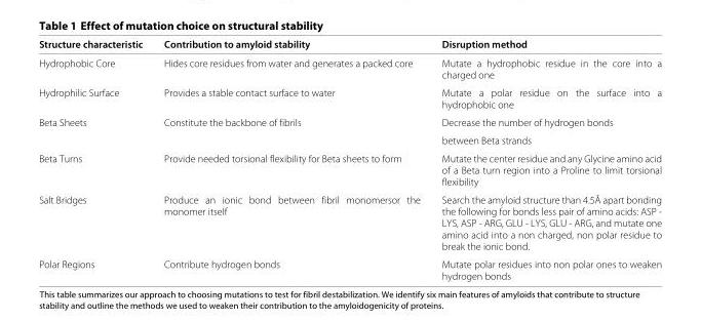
<table><thead><tr><td>Structure characteristic</td><td>Contribution to amyloid stability</td><td>Disruption method</td></tr></thead><tbody><tr><td>Hydrophobic Core</td><td>Hides core residues from water and generates a packed core</td><td>Mutate a hydrophobic residue in the core into a charged one</td></tr><tr><td>Hydrophilic Surface</td><td>Provides a stable contact surface to water</td><td>Mutate a polar residue on the surface into a hydrophobic one</td></tr><tr><td rowspan="2">Beta Sheets</td><td>Constitute the backbone of fibrils</td><td>Decrease the number of hydrogen bonds</td></tr><tr><td></td><td>between Beta strands</td></tr><tr><td>Beta Turns</td><td>Provide needed torsional flexibility for Beta sheets to form</td><td>Mutate the center residue and any Glycine amino acid of a Beta turn region into a Proline to limit torsional flexibility</td></tr><tr><td>Salt Bridges</td><td>Produce an ionic bond between fibril monomersor the monomer itself</td><td>Search the amyloid structure than 4.5Å apart bonding the following for bonds less pair of amino acids: ASP - LYS, ASP - ARG, GLU - LYS, GLU - ARG, and mutate one amino acid into a non charged, non polar residue to break the ionic bond.</td></tr><tr><td>Polar Regions</td><td>Contribute hydrogen bonds</td><td>Mutate polar residues into non polar ones to weaken hydrogen bonds</td></tr></tbody></table>